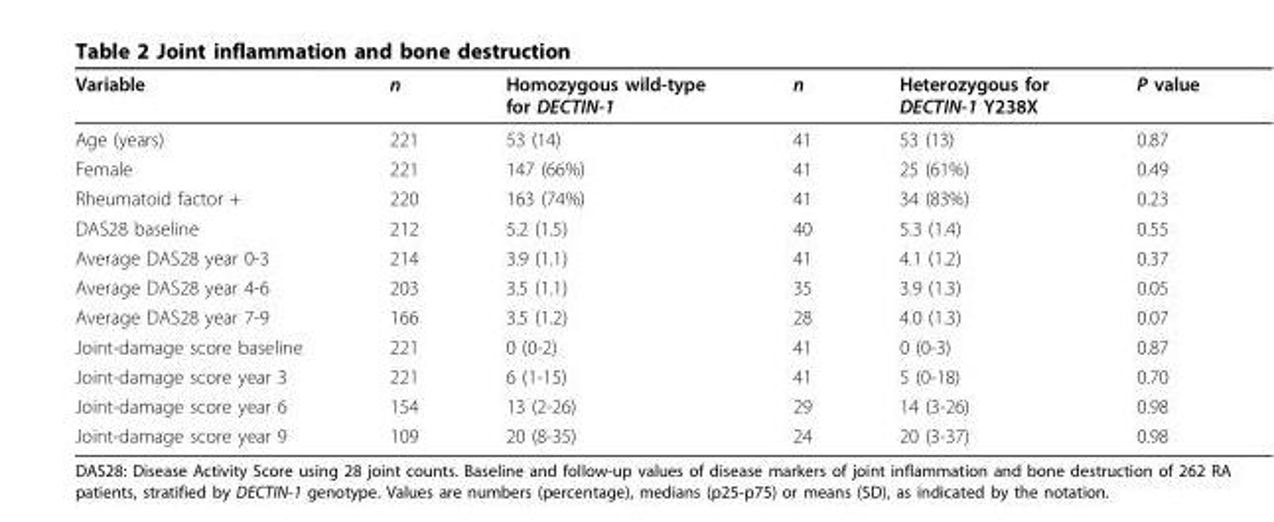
<table><thead><tr><td>Variable</td><td>n</td><td>Homozygous wild-type for DECTIN-1</td><td>n</td><td>Heterozygous for DECTIN-1 Y238X</td><td>P value</td></tr></thead><tbody><tr><td>Age (years)</td><td>221</td><td>53 (14)</td><td>41</td><td>53 (13)</td><td>0.87</td></tr><tr><td>Female</td><td>221</td><td>147 (66%)</td><td>41</td><td>25 (61%)</td><td>0.49</td></tr><tr><td>Rheumatoid factor +</td><td>220</td><td>163 (74%)</td><td>41</td><td>34 (83%)</td><td>0.23</td></tr><tr><td>DAS28 baseline</td><td>212</td><td>5.2 (1.5)</td><td>40</td><td>5.3 (1.4)</td><td>0.55</td></tr><tr><td>Average DAS28 year 0-3</td><td>214</td><td>3.9 (1.1)</td><td>41</td><td>4.1 (1.2)</td><td>0.37</td></tr><tr><td>Average DAS28 year 4-6</td><td>203</td><td>3.5 (1.1)</td><td>35</td><td>3.9 (1.3)</td><td>0.05</td></tr><tr><td>Average DAS28 year 7-9</td><td>166</td><td>3.5 (1.2)</td><td>28</td><td>4.0 (1.3)</td><td>0.07</td></tr><tr><td>Joint-damage score baseline</td><td>221</td><td>0 (0-2)</td><td>41</td><td>0 (0-3)</td><td>0.87</td></tr><tr><td>Joint-damage score year 3</td><td>221</td><td>6 (1-15)</td><td>41</td><td>5 (0-18)</td><td>0.70</td></tr><tr><td>Joint-damage score year 6</td><td>154</td><td>13 (2-26)</td><td>29</td><td>14 (3-26)</td><td>0.98</td></tr><tr><td>Joint-damage score year 9</td><td>109</td><td>20 (8-35)</td><td>24</td><td>20 (3-37)</td><td>0.98</td></tr></tbody></table>